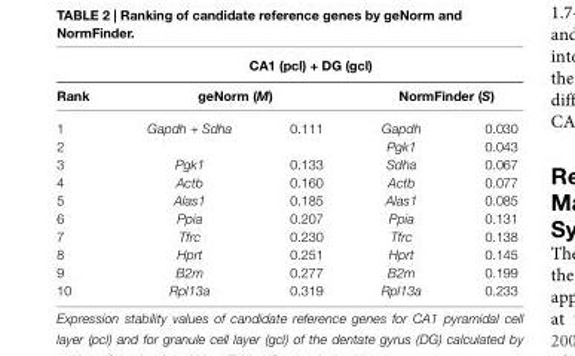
<table><thead><tr><td colspan="5">CA1 (pcl) + DG (gcl)</td></tr><tr><td rowspan="2">Rank 1</td><td colspan="2">geNorm (M)</td><td colspan="2">NormFinder (S)</td></tr><tr><td>Gapdh + Sdha</td><td>0.111</td><td>Gapdh</td><td>0.030</td></tr></thead><tbody><tr><td>2</td><td></td><td></td><td>Pgk1</td><td>0.043</td></tr><tr><td>3</td><td>Pgk1</td><td>0.133</td><td>Sdha</td><td>0.067</td></tr><tr><td>4</td><td>Actb</td><td>0.160</td><td>Actb</td><td>0.077</td></tr><tr><td>5</td><td>Alas1</td><td>0.185</td><td>Alas1</td><td>0.085</td></tr><tr><td>6</td><td>Ppia</td><td>0.207</td><td>Ppia</td><td>0.131</td></tr><tr><td>7</td><td>Tfrc</td><td>0.230</td><td>Tfrc</td><td>0.138</td></tr><tr><td>8</td><td>Hprt</td><td>0.251</td><td>Hprt</td><td>0.145</td></tr><tr><td>9</td><td>B2m</td><td>0.277</td><td>B2m</td><td>0.199</td></tr><tr><td>10</td><td>Rpl13a</td><td>0.319</td><td>Rpl13a</td><td>0.233</td></tr></tbody></table>